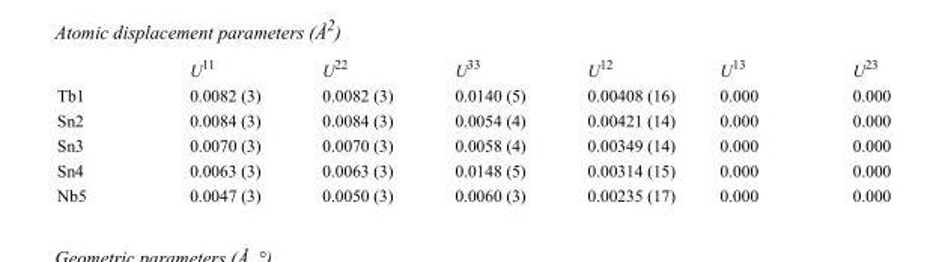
<table><thead><tr><td></td><td>U<sup>11</sup></td><td>U<sup>22</sup></td><td>U<sup>33</sup></td><td>U<sup>12</sup></td><td>U<sup>13</sup></td><td>U<sup>23</sup></td></tr></thead><tbody><tr><td>Tb1</td><td>0.0082 (3)</td><td>0.0082 (3)</td><td>0.0140 (5)</td><td>0.00408 (16)</td><td>0.000</td><td>0.000</td></tr><tr><td>Sn2</td><td>0.0084 (3)</td><td>0.0084 (3)</td><td>0.0054 (4)</td><td>0.00421 (14)</td><td>0.000</td><td>0.000</td></tr><tr><td>Sn3</td><td>0.0070 (3)</td><td>0.0070 (3)</td><td>0.0058 (4)</td><td>0.00349 (14)</td><td>0.000</td><td>0.000</td></tr><tr><td>Sn4</td><td>0.0063 (3)</td><td>0.0063 (3)</td><td>0.0148 (5)</td><td>0.00314 (15)</td><td>0.000</td><td>0.000</td></tr><tr><td>Nb5</td><td>0.0047 (3)</td><td>0.0050 (3)</td><td>0.0060 (3)</td><td>0.00235 (17)</td><td>0.000</td><td>0.000</td></tr></tbody></table>